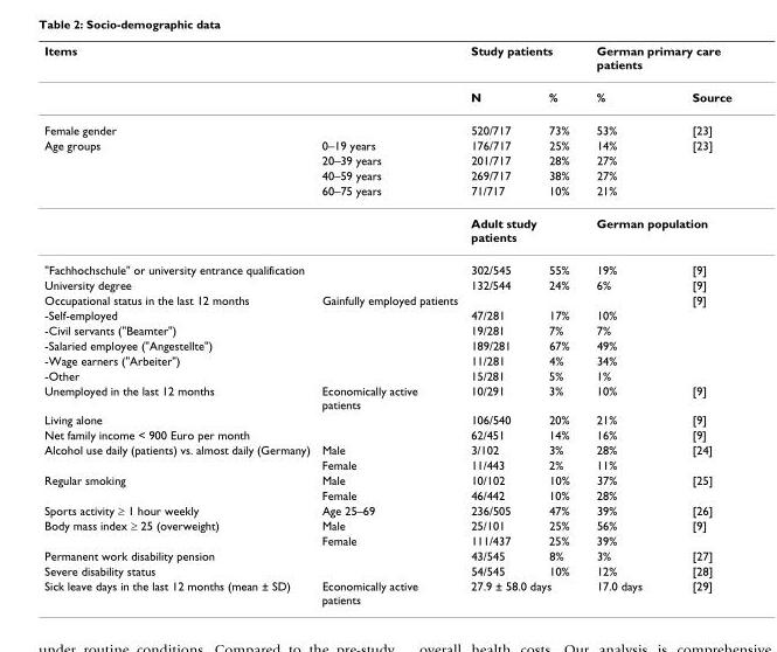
<table><thead><tr><td rowspan="2">Items</td><td rowspan="2"></td><td colspan="2">Study patients</td><td colspan="2">German primary care patients</td></tr><tr><td>N</td><td>%</td><td>%</td><td>Source</td></tr></thead><tbody><tr><td>Female gender</td><td></td><td>520/717</td><td>73%</td><td>53%</td><td>[23]</td></tr><tr><td rowspan="5">Age groups</td><td>0–19 years</td><td>176/717</td><td>25%</td><td>14%</td><td>[23]</td></tr><tr><td>20–39 years</td><td>201/717</td><td>28%</td><td>27%</td><td></td></tr><tr><td>40–59 years</td><td>269/717</td><td>38%</td><td>27%</td><td></td></tr><tr><td>60–75 years</td><td>71/717</td><td>10%</td><td>21%</td><td></td></tr><tr><td></td><td colspan="2">Adult study patients</td><td colspan="2">German population</td></tr><tr><td>&quot;Fachhochschule&quot; or university entrance qualification</td><td></td><td>302/545</td><td>55%</td><td>19%</td><td>[9]</td></tr><tr><td>University degree</td><td></td><td>132/544</td><td>24%</td><td>6%</td><td>[9]</td></tr><tr><td>Occupational status in the last 12 months</td><td>Gainfully employed patients</td><td></td><td></td><td></td><td>[9]</td></tr><tr><td>-Self-employed</td><td></td><td>47/281</td><td>17%</td><td>10%</td><td></td></tr><tr><td>-Civil servants (&quot;Beamter&quot;)</td><td></td><td>19/281</td><td>7%</td><td>7%</td><td></td></tr><tr><td>-Salaried employee (&quot;Angestellte&quot;)</td><td></td><td>189/281</td><td>67%</td><td>49%</td><td></td></tr><tr><td>-Wage earners (&quot;Arbeiter&quot;)</td><td></td><td>11/281</td><td>4%</td><td>34%</td><td></td></tr><tr><td>-Other</td><td></td><td>15/281</td><td>5%</td><td>1%</td><td></td></tr><tr><td>Unemployed in the last 12 months</td><td>Economically active patients</td><td>10/291</td><td>3%</td><td>10%</td><td>[9]</td></tr><tr><td>Living alone</td><td></td><td>106/540</td><td>20%</td><td>21%</td><td>[9]</td></tr><tr><td>Net family income &lt; 900 Euro per month</td><td></td><td>62/451</td><td>14%</td><td>16%</td><td>[9]</td></tr><tr><td rowspan="2">Alcohol use daily (patients) vs. almost daily (Germany)</td><td>Male</td><td>3/102</td><td>3%</td><td>28%</td><td>[24]</td></tr><tr><td>Female</td><td>11/443</td><td>2%</td><td>11%</td><td></td></tr><tr><td rowspan="2">Regular smoking</td><td>Male</td><td>10/102</td><td>10%</td><td>37%</td><td>[25]</td></tr><tr><td>Female</td><td>46/442</td><td>10%</td><td>28%</td><td></td></tr><tr><td>Sports activity ≥ 1 hour weekly</td><td>Age 25–69</td><td>236/505</td><td>47%</td><td>39%</td><td>[26]</td></tr><tr><td rowspan="2">Body mass index ≥ 25 (overweight)</td><td>Male</td><td>25/101</td><td>25%</td><td>56%</td><td>[9]</td></tr><tr><td>Female</td><td>111/437</td><td>25%</td><td>39%</td><td></td></tr><tr><td>Permanent work disability pension</td><td></td><td>43/545</td><td>8%</td><td>3%</td><td>[27]</td></tr><tr><td>Severe disability status</td><td></td><td>54/545</td><td>10%</td><td>12%</td><td>[28]</td></tr><tr><td>Sick leave days in the last 12 months (mean ± SD)</td><td>Economically active patients</td><td colspan="2">27.9 ± 58.0 days</td><td>17.0 days</td><td>[29]</td></tr></tbody></table>